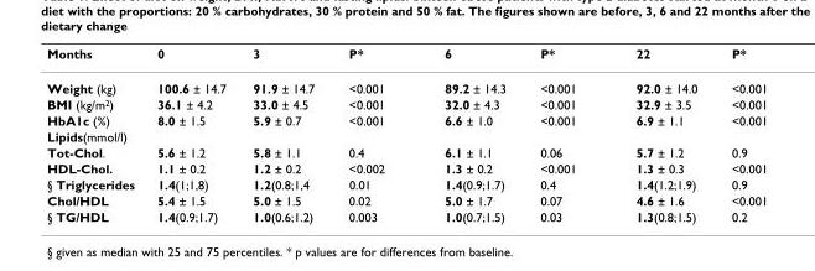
<table><thead><tr><td>Months</td><td>0</td><td>3</td><td>P*</td><td>6</td><td>P*</td><td>22</td><td>P*</td></tr></thead><tbody><tr><td>Weight (kg)</td><td>100.6 ± 14.7</td><td>91.9 ± 14.7</td><td>&lt;0.001</td><td>89.2 ± 14.3</td><td>&lt;0.001</td><td>92.0 ± 14.0</td><td>&lt;0.001</td></tr><tr><td>BMI (kg/m<sup>2</sup>)</td><td>36.1 ± 4.2</td><td>33.0 ± 4.5</td><td>&lt;0.001</td><td>32.0 ± 4.3</td><td>&lt;0.001</td><td>32.9 ± 3.5</td><td>&lt;0.001</td></tr><tr><td>HbA1c (%)</td><td>8.0 ± 1.5</td><td>5.9 ± 0.7</td><td>&lt;0.001</td><td>6.6 ± 1.0</td><td>&lt;0.001</td><td>6.9 ± 1.1</td><td>&lt;0.001</td></tr><tr><td colspan="8">Lipids(mmol/l)</td></tr><tr><td>Tot-Chol.</td><td>5.6 ± 1.2</td><td>5.8 ± 1.1</td><td>0.4</td><td>6.1 ± 1.1</td><td>0.06</td><td>5.7 ± 1.2</td><td>0.9</td></tr><tr><td>HDL-Chol.</td><td>1.1 ± 0.2</td><td>1.2 ± 0.2</td><td>&lt;0.002</td><td>1.3 ± 0.2</td><td>&lt;0.001</td><td>1.3 ± 0.3</td><td>&lt;0.001</td></tr><tr><td>§ Triglycerides</td><td>1.4(1;1,8)</td><td>1.2(0.8;1,4</td><td>0.01</td><td>1.4(0.9;1.7)</td><td>0.4</td><td>1.4(1.2;1.9)</td><td>0.9</td></tr><tr><td>Chol/HDL</td><td>5.4 ± 1.5</td><td>5.0 ± 1.5</td><td>0.02</td><td>5.0 ± 1.7</td><td>0.07</td><td>4.6 ± 1.6</td><td>&lt;0.001</td></tr><tr><td>§ TG/HDL</td><td>1.4(0.9;1.7)</td><td>1.0(0.6;1.2)</td><td>0.003</td><td>1.0(0.7;1.5)</td><td>0.03</td><td>1.3(0.8;1.5)</td><td>0.2</td></tr></tbody></table>